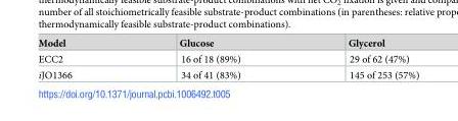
<table><thead><tr><td>Model</td><td>Glucose</td><td>Glycerol</td></tr></thead><tbody><tr><td>ECC2</td><td>16 of 18 (89%)</td><td>29 of 62 (47%)</td></tr><tr><td>iJO1366</td><td>34 of 41 (83%)</td><td>145 of 253 (57%)</td></tr></tbody></table>